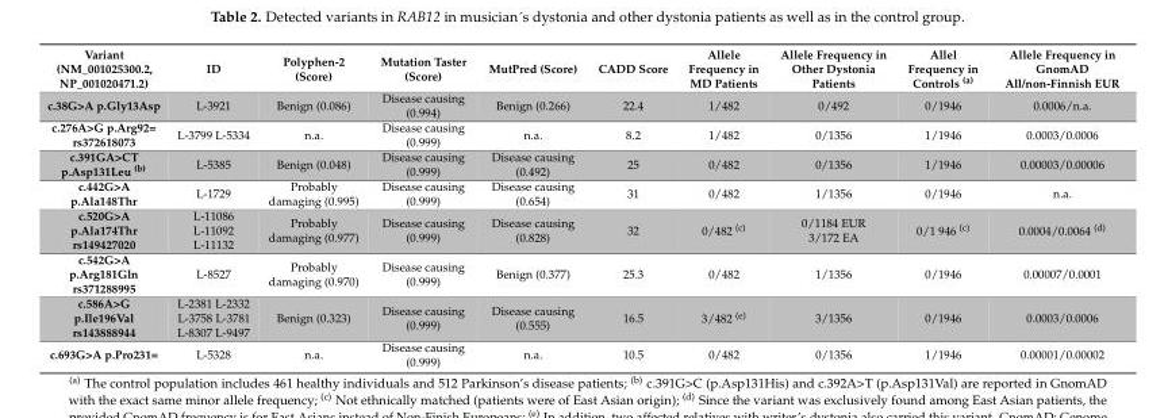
<table><thead><tr><td>Variant (NM_001025300.2, NP_001020471.2)</td><td>ID</td><td>Polyphen-2 (Score)</td><td>Mutation Taster (Score)</td><td>MutPred (Score)</td><td>CADD Score</td><td>Allele Frequency in MD Patients</td><td>Allele Frequency in Other Dystonia Patients</td><td>Allel Frequency in Controls <sup>(a)</sup></td><td>Allele Frequency in GnomAD All/non-Finnish EUR</td></tr></thead><tbody><tr><td>c.38G&gt;A p.Gly13Asp</td><td>L-3921</td><td>Benign (0.086)</td><td>Disease causing (0.994)</td><td>Benign (0.266)</td><td>22.4</td><td>1/482</td><td>0/492</td><td>0/1946</td><td>0.0006/n.a.</td></tr><tr><td>c.276A&gt;G p.Arg92= rs372618073</td><td>L-3799 L-5334</td><td>n.a.</td><td>Disease causing (0.999)</td><td>n.a.</td><td>8.2</td><td>1/482</td><td>0/1356</td><td>1/1946</td><td>0.0003/0.0006</td></tr><tr><td>c.391GA&gt;CT p.Asp131Leu <sup>(b)</sup></td><td>L-5385</td><td>Benign (0.048)</td><td>Disease causing (0.999)</td><td>Disease causing (0.492)</td><td>25</td><td>0/482</td><td>0/1356</td><td>1/1946</td><td>0.00003/0.00006</td></tr><tr><td>c.442G&gt;A p.Ala148Thr</td><td>L-1729</td><td>Probably damaging (0.995)</td><td>Disease causing (0.999)</td><td>Disease causing (0.654)</td><td>31</td><td>0/482</td><td>1/1356</td><td>0/1946</td><td>n.a.</td></tr><tr><td>c.520G&gt;A p.Ala174Thr rs149427020</td><td>L-11086 L-11092 L-11132</td><td>Probably damaging (0.977)</td><td>Disease causing (0.999)</td><td>Disease causing (0.828)</td><td>32</td><td>0/482 <sup>(c)</sup></td><td>0/1184 EUR 3/172 EA</td><td>0/1 946 <sup>(c)</sup></td><td>0.0004/0.0064 <sup>(d)</sup></td></tr><tr><td>c.542G&gt;A p.Arg181Gln rs371288995</td><td>L-8527</td><td>Probably damaging (0.970)</td><td>Disease causing (0.999)</td><td>Benign (0.377)</td><td>25.3</td><td>0/482</td><td>1/1356</td><td>0/1946</td><td>0.00007/0.0001</td></tr><tr><td>c.586A&gt;G p.Ile196Val rs143888944</td><td>L-2381 L-2332 L-3758 L-3781 L-8307 L-9497</td><td>Benign (0.323)</td><td>Disease causing (0.999)</td><td>Disease causing (0.555)</td><td>16.5</td><td>3/482 <sup>(e)</sup></td><td>3/1356</td><td>0/1946</td><td>0.0003/0.0006</td></tr><tr><td>c.693G&gt;A p.Pro231=</td><td>L-5328</td><td>n.a.</td><td>Disease causing (0.999)</td><td>n.a.</td><td>10.5</td><td>0/482</td><td>0/1356</td><td>1/1946</td><td>0.00001/0.00002</td></tr></tbody></table>